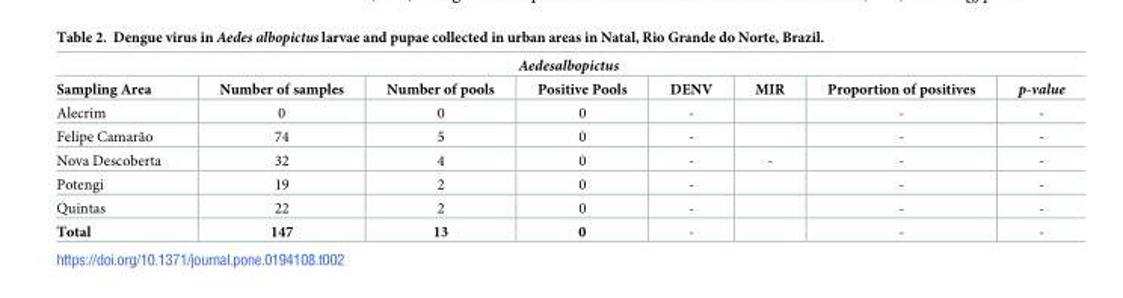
<table><thead><tr><td colspan="8">Aedesalbopictus</td></tr><tr><td>Sampling Area</td><td>Number of samples</td><td>Number of pools</td><td>Positive Pools</td><td>DENV</td><td>MIR</td><td>Proportion of positives</td><td>p-value</td></tr></thead><tbody><tr><td>Alecrim</td><td>0</td><td>0</td><td>0</td><td>-</td><td></td><td>-</td><td>-</td></tr><tr><td>Felipe Camarão</td><td>74</td><td>5</td><td>0</td><td>-</td><td></td><td>-</td><td>-</td></tr><tr><td>Nova Descoberta</td><td>32</td><td>4</td><td>0</td><td>-</td><td>-</td><td>-</td><td>-</td></tr><tr><td>Potengi</td><td>19</td><td>2</td><td>0</td><td>-</td><td></td><td>-</td><td>-</td></tr><tr><td>Quintas</td><td>22</td><td>2</td><td>0</td><td>-</td><td></td><td>-</td><td>-</td></tr><tr><td>Total</td><td>147</td><td>13</td><td>0</td><td>-</td><td></td><td>-</td><td>-</td></tr></tbody></table>